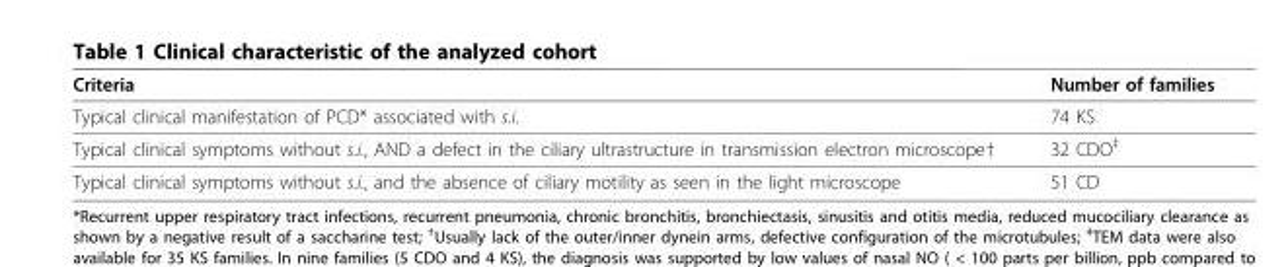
<table><thead><tr><td>Criteria</td><td>Number of families</td></tr></thead><tbody><tr><td>Typical clinical manifestation of PCD* associated with s.i.</td><td>74 KS</td></tr><tr><td>Typical clinical symptoms without s.i., AND a defect in the ciliary ultrastructure in transmission electron microscope†</td><td>32 CDO<sup>‡</sup></td></tr><tr><td>Typical clinical symptoms without s.i., and the absence of ciliary motility as seen in the light microscope</td><td>51 CD</td></tr></tbody></table>